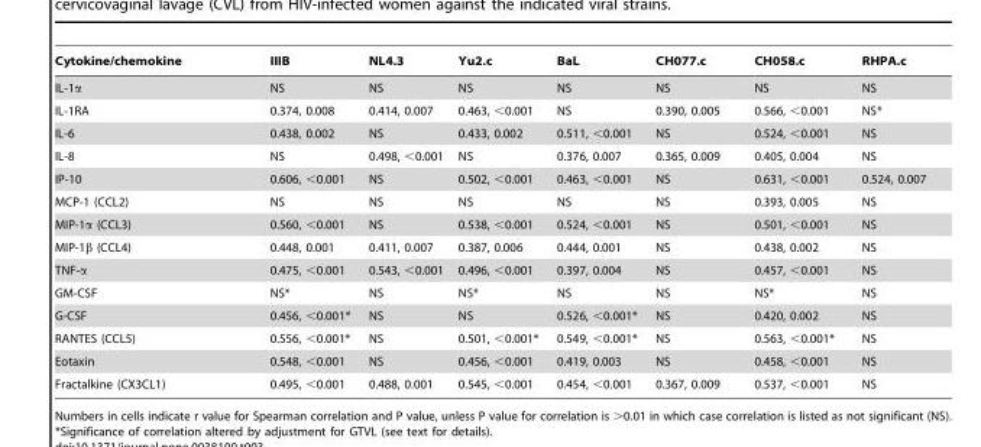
<table><thead><tr><td>Cytokine/chemokine</td><td>IIIB</td><td>NL4.3</td><td>Yu2.c</td><td>BaL</td><td>CH077.c</td><td>CH058.c</td><td>RHPA.c</td></tr></thead><tbody><tr><td>IL-1α</td><td>NS</td><td>NS</td><td>NS</td><td>NS</td><td>NS</td><td>NS</td><td>NS</td></tr><tr><td>IL-1RA</td><td>0.374, 0.008</td><td>0.414, 0.007</td><td>0.463, &lt;0.001</td><td>NS</td><td>0.390, 0.005</td><td>0.566, &lt;0.001</td><td>NS*</td></tr><tr><td>IL-6</td><td>0.438, 0.002</td><td>NS</td><td>0.433, 0.002</td><td>0.511, &lt;0.001</td><td>NS</td><td>0.524, &lt;0.001</td><td>NS</td></tr><tr><td>IL-8</td><td>NS</td><td>0.498, &lt;0.001</td><td>NS</td><td>0.376, 0.007</td><td>0.365, 0.009</td><td>0.405, 0.004</td><td>NS</td></tr><tr><td>IP-10</td><td>0.606, &lt;0.001</td><td>NS</td><td>0.502, &lt;0.001</td><td>0.463, &lt;0.001</td><td>NS</td><td>0.631, &lt;0.001</td><td>0.524, 0.007</td></tr><tr><td>MCP-1 (CCL2)</td><td>NS</td><td>NS</td><td>NS</td><td>NS</td><td>NS</td><td>0.393, 0.005</td><td>NS</td></tr><tr><td>MIP-1α (CCL3)</td><td>0.560, &lt;0.001</td><td>NS</td><td>0.538, &lt;0.001</td><td>0.524, &lt;0.001</td><td>NS</td><td>0.501, &lt;0.001</td><td>NS</td></tr><tr><td>MIP-1β (CCL4)</td><td>0.448, 0.001</td><td>0.411, 0.007</td><td>0.387, 0.006</td><td>0.444, 0.001</td><td>NS</td><td>0.438, 0.002</td><td>NS</td></tr><tr><td>TNF-α</td><td>0.475, &lt;0.001</td><td>0.543, &lt;0.001</td><td>0.496, &lt;0.001</td><td>0.397, 0.004</td><td>NS</td><td>0.457, &lt;0.001</td><td>NS</td></tr><tr><td>GM-CSF</td><td>NS*</td><td>NS</td><td>NS*</td><td>NS</td><td>NS</td><td>NS*</td><td>NS</td></tr><tr><td>G-CSF</td><td>0.456, &lt;0.001*</td><td>NS</td><td>NS</td><td>0.526, &lt;0.001*</td><td>NS</td><td>0.420, 0.002</td><td>NS</td></tr><tr><td>RANTES (CCL5)</td><td>0.556, &lt;0.001*</td><td>NS</td><td>0.501, &lt;0.001*</td><td>0.549, &lt;0.001*</td><td>NS</td><td>0.563, &lt;0.001*</td><td>NS</td></tr><tr><td>Eotaxin</td><td>0.548, &lt;0.001</td><td>NS</td><td>0.456, &lt;0.001</td><td>0.419, 0.003</td><td>NS</td><td>0.458, &lt;0.001</td><td>NS</td></tr><tr><td>Fractalkine (CX3CL1)</td><td>0.495, &lt;0.001</td><td>0.488, 0.001</td><td>0.545, &lt;0.001</td><td>0.454, &lt;0.001</td><td>0.367, 0.009</td><td>0.537, &lt;0.001</td><td>NS</td></tr></tbody></table>